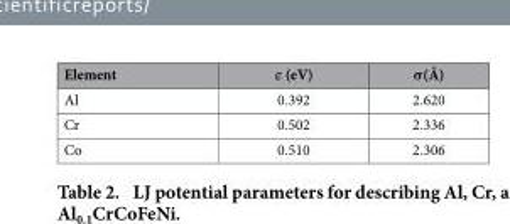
<table><thead><tr><td>Element</td><td>ε (eV)</td><td>σ (Å)</td></tr></thead><tbody><tr><td>Al</td><td>0.392</td><td>2.620</td></tr><tr><td>Cr</td><td>0.502</td><td>2.336</td></tr><tr><td>Co</td><td>0.510</td><td>2.306</td></tr></tbody></table>